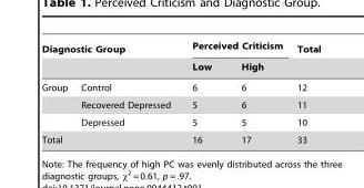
<table><thead><tr><td colspan="2">Diagnostic Group</td><td colspan="2">Perceived Criticism</td><td rowspan="2">Total</td></tr><tr><td></td><td></td><td>Low</td><td>High</td></tr></thead><tbody><tr><td rowspan="3">Group</td><td>Control</td><td>6</td><td>6</td><td>12</td></tr><tr><td>Recovered Depressed</td><td>5</td><td>6</td><td>11</td></tr><tr><td>Depressed</td><td>5</td><td>5</td><td>10</td></tr><tr><td colspan="2">Total</td><td>16</td><td>17</td><td>33</td></tr></tbody></table>